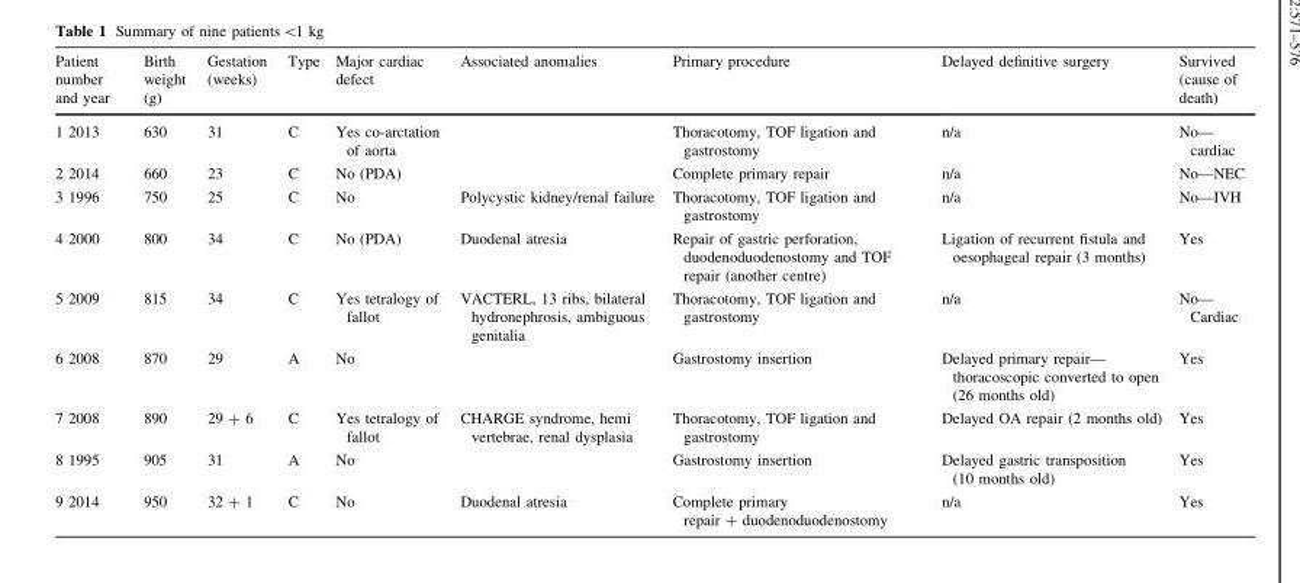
<table><thead><tr><td>Patient number and year</td><td>Birth weight (g)</td><td>Gestation (weeks)</td><td>Type</td><td>Major cardiac defect</td><td>Associated anomalies</td><td>Primary procedure</td><td>Delayed definitive surgery</td><td>Survived (cause of death)</td></tr></thead><tbody><tr><td>1 2013</td><td>630</td><td>31</td><td>C</td><td>Yes co-arctation of aorta</td><td></td><td>Thoracotomy, TOF ligation and gastrostomy</td><td>n/a</td><td>No— cardiac</td></tr><tr><td>2 2014</td><td>660</td><td>23</td><td>C</td><td>No (PDA)</td><td></td><td>Complete primary repair</td><td>n/a</td><td>No—NEC</td></tr><tr><td>3 1996</td><td>750</td><td>25</td><td>C</td><td>No</td><td>Polycystic kidney/renal failure</td><td>Thoracotomy, TOF ligation and gastrostomy</td><td>n/a</td><td>No—IVH</td></tr><tr><td>4 2000</td><td>800</td><td>34</td><td>C</td><td>No (PDA)</td><td>Duodenal atresia</td><td>Repair of gastric perforation, duodenoduodenostomy and TOF repair (another centre)</td><td>Ligation of recurrent fistula and oesophageal repair (3 months)</td><td>Yes</td></tr><tr><td>5 2009</td><td>815</td><td>34</td><td>C</td><td>Yes tetralogy of fallot</td><td>VACTERL, 13 ribs, bilateral hydronephrosis, ambiguous genitalia</td><td>Thoracotomy, TOF ligation and gastrostomy</td><td>n/a</td><td>No— Cardiac</td></tr><tr><td>6 2008</td><td>870</td><td>29</td><td>A</td><td>No</td><td></td><td>Gastrostomy insertion</td><td>Delayed primary repair— thoracoscopic converted to open (26 months old)</td><td>Yes</td></tr><tr><td>7 2008</td><td>890</td><td>29 + 6</td><td>C</td><td>Yes tetralogy of fallot</td><td>CHARGE syndrome, hemi vertebrae, renal dysplasia</td><td>Thoracotomy, TOF ligation and gastrostomy</td><td>Delayed OA repair (2 months old)</td><td>Yes</td></tr><tr><td>8 1995</td><td>905</td><td>31</td><td>A</td><td>No</td><td></td><td>Gastrostomy insertion</td><td>Delayed gastric transposition (10 months old)</td><td>Yes</td></tr><tr><td>9 2014</td><td>950</td><td>32 + 1</td><td>C</td><td>No</td><td>Duodenal atresia</td><td>Complete primary repair + duodenoduodenostomy</td><td>n/a</td><td>Yes</td></tr></tbody></table>